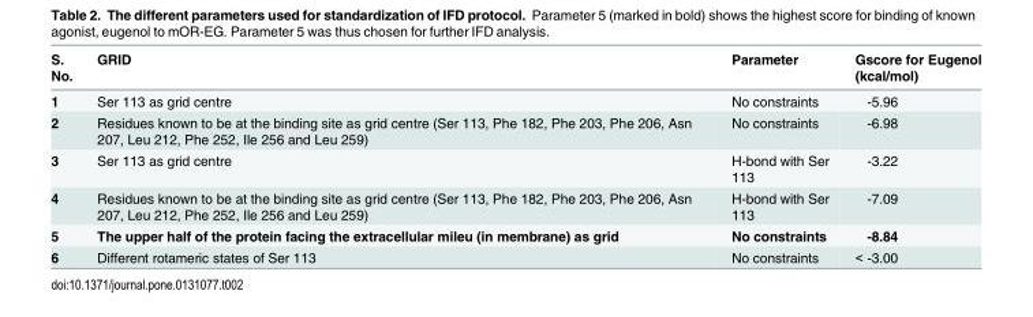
<table><thead><tr><td>S. No.</td><td>GRID</td><td>Parameter</td><td>Gscore for Eugenol (kcal/mol)</td></tr></thead><tbody><tr><td>1</td><td>Ser 113 as grid centre</td><td>No constraints</td><td>-5.96</td></tr><tr><td>2</td><td>Residues known to be at the binding site as grid centre (Ser 113, Phe 182, Phe 203, Phe 206, Asn 207, Leu 212, Phe 252, Ile 256 and Leu 259)</td><td>No constraints</td><td>-6.98</td></tr><tr><td>3</td><td>Ser 113 as grid centre</td><td>H-bond with Ser 113</td><td>-3.22</td></tr><tr><td>4</td><td>Residues known to be at the binding site as grid centre (Ser 113, Phe 182, Phe 203, Phe 206, Asn 207, Leu 212, Phe 252, Ile 256 and Leu 259)</td><td>H-bond with Ser 113</td><td>-7.09</td></tr><tr><td>5</td><td>The upper half of the protein facing the extracellular mileu (in membrane) as grid</td><td>No constraints</td><td>-8.84</td></tr><tr><td>6</td><td>Different rotameric states of Ser 113</td><td>No constraints</td><td>&lt; -3.00</td></tr></tbody></table>